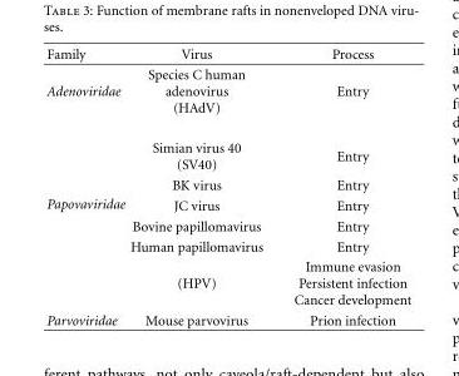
<table><thead><tr><td>Family</td><td>Virus</td><td>Process</td></tr></thead><tbody><tr><td>Adenoviridae</td><td>Species C human adenovirus (HAdV)</td><td>Entry</td></tr><tr><td rowspan="6">Papovaviridae</td><td>Simian virus 40 (SV40)</td><td>Entry</td></tr><tr><td>BK virus</td><td>Entry</td></tr><tr><td>JC virus</td><td>Entry</td></tr><tr><td>Bovine papillomavirus</td><td>Entry</td></tr><tr><td>Human papillomavirus</td><td>Entry</td></tr><tr><td>(HPV)</td><td>Immune evasion Persistent infection Cancer development</td></tr><tr><td>Parvoviridae</td><td>Mouse parvovirus</td><td>Prion infection</td></tr></tbody></table>